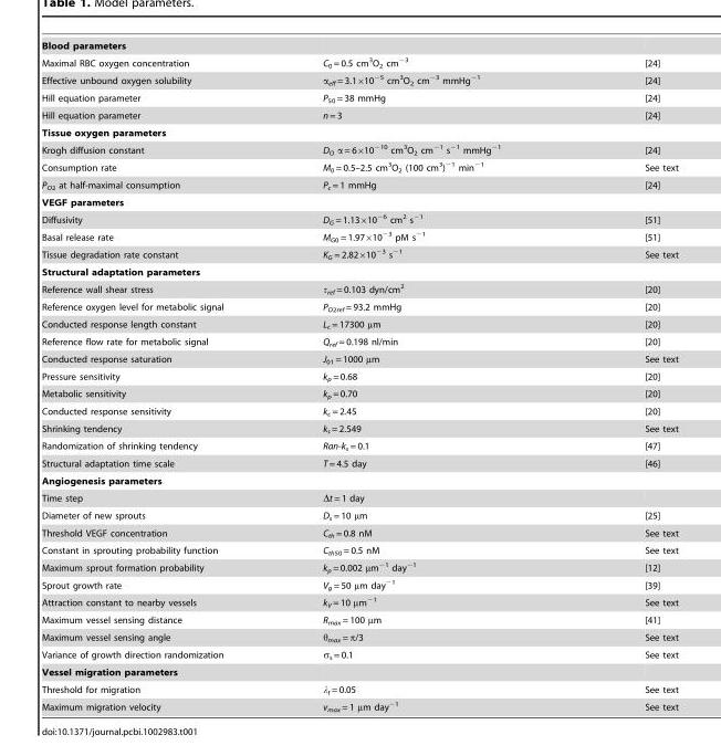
<table><tbody><tr><td colspan="3">Blood parameters</td></tr><tr><td>Maximal RBC oxygen concentration</td><td>C<sub>0</sub> = 0.5 cm<sup>3</sup>O<sub>2</sub> cm<sup>−3</sup></td><td>[24]</td></tr><tr><td>Effective unbound oxygen solubility</td><td>α<sub>eff</sub> = 3.1×10<sup>−5</sup> cm<sup>3</sup>O<sub>2</sub> cm<sup>−3</sup> mmHg<sup>−1</sup></td><td>[24]</td></tr><tr><td>Hill equation parameter</td><td>P<sub>50</sub> = 38 mmHg</td><td>[24]</td></tr><tr><td>Hill equation parameter</td><td>n = 3</td><td>[24]</td></tr><tr><td colspan="3">Tissue oxygen parameters</td></tr><tr><td>Krogh diffusion constant</td><td>D<sub>O</sub> α = 6×10<sup>−10</sup> cm<sup>3</sup>O<sub>2</sub> cm<sup>−1</sup> s<sup>−1</sup> mmHg<sup>−1</sup></td><td>[24]</td></tr><tr><td>Consumption rate</td><td>M<sub>0</sub> = 0.5–2.5 cm<sup>3</sup>O<sub>2</sub> (100 cm<sup>3</sup>)<sup>−1</sup> min<sup>−1</sup></td><td>See text</td></tr><tr><td>P<sub>O2</sub> at half-maximal consumption</td><td>P<sub>c</sub> = 1 mmHg</td><td>[24]</td></tr><tr><td colspan="3">VEGF parameters</td></tr><tr><td>Diffusivity</td><td>D<sub>G</sub> = 1.13×10<sup>−6</sup> cm<sup>2</sup> s<sup>−1</sup></td><td>[51]</td></tr><tr><td>Basal release rate</td><td>M<sub>G0</sub> = 1.97×10<sup>−3</sup> pM s<sup>−1</sup></td><td>[51]</td></tr><tr><td>Tissue degradation rate constant</td><td>K<sub>G</sub> = 2.82×10<sup>−3</sup> s<sup>−1</sup></td><td>See text</td></tr><tr><td colspan="3">Structural adaptation parameters</td></tr><tr><td>Reference wall shear stress</td><td>τ<sub>ref</sub> = 0.103 dyn/cm<sup>2</sup></td><td>[20]</td></tr><tr><td>Reference oxygen level for metabolic signal</td><td>P<sub>O2ref</sub> = 93.2 mmHg</td><td>[20]</td></tr><tr><td>Conducted response length constant</td><td>L<sub>c</sub> = 17300 µm</td><td>[20]</td></tr><tr><td>Reference flow rate for metabolic signal</td><td>Q<sub>ref</sub> = 0.198 nl/min</td><td>[20]</td></tr><tr><td>Conducted response saturation</td><td>J<sub>01</sub> = 1000 µm</td><td>See text</td></tr><tr><td>Pressure sensitivity</td><td>k<sub>p</sub> = 0.68</td><td>[20]</td></tr><tr><td>Metabolic sensitivity</td><td>k<sub>p</sub> = 0.70</td><td>[20]</td></tr><tr><td>Conducted response sensitivity</td><td>k<sub>c</sub> = 2.45</td><td>[20]</td></tr><tr><td>Shrinking tendency</td><td>k<sub>s</sub> = 2.549</td><td>See text</td></tr><tr><td>Randomization of shrinking tendency</td><td>Ran-k<sub>s</sub> = 0.1</td><td>[47]</td></tr><tr><td>Structural adaptation time scale</td><td>T = 4.5 day</td><td>[46]</td></tr><tr><td colspan="3">Angiogenesis parameters</td></tr><tr><td>Time step</td><td>Δt = 1 day</td><td></td></tr><tr><td>Diameter of new sprouts</td><td>D<sub>s</sub> = 10 µm</td><td>[25]</td></tr><tr><td>Threshold VEGF concentration</td><td>C<sub>th</sub> = 0.8 nM</td><td>See text</td></tr><tr><td>Constant in sprouting probability function</td><td>C<sub>th50</sub> = 0.5 nM</td><td>See text</td></tr><tr><td>Maximum sprout formation probability</td><td>k<sub>p</sub> = 0.002 µm<sup>−1</sup> day<sup>−1</sup></td><td>[12]</td></tr><tr><td>Sprout growth rate</td><td>V<sub>g</sub> = 50 µm day<sup>−1</sup></td><td>[39]</td></tr><tr><td>Attraction constant to nearby vessels</td><td>k<sub>V</sub> = 10 µm<sup>−1</sup></td><td>See text</td></tr><tr><td>Maximum vessel sensing distance</td><td>R<sub>max</sub> = 100 µm</td><td>[41]</td></tr><tr><td>Maximum vessel sensing angle</td><td>θ<sub>max</sub> = π/3</td><td>See text</td></tr><tr><td>Variance of growth direction randomization</td><td>σ<sub>s</sub> = 0.1</td><td>See text</td></tr><tr><td colspan="3">Vessel migration parameters</td></tr><tr><td>Threshold for migration</td><td>λ<sub>t</sub> = 0.05</td><td>See text</td></tr><tr><td>Maximum migration velocity</td><td>v<sub>max</sub> = 1 µm day<sup>−1</sup></td><td>See text</td></tr></tbody></table>